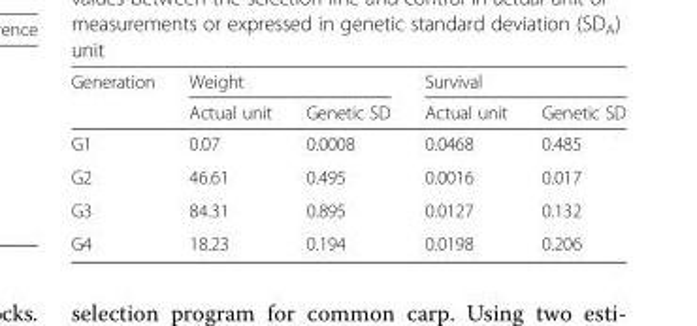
<table><thead><tr><td rowspan="2">Generation</td><td colspan="2">Weight</td><td colspan="2">Survival</td></tr><tr><td>Actual unit</td><td>Genetic SD</td><td>Actual unit</td><td>Genetic SD</td></tr></thead><tbody><tr><td>G1</td><td>0.07</td><td>0.0008</td><td>0.0468</td><td>0.485</td></tr><tr><td>G2</td><td>46.61</td><td>0.495</td><td>0.0016</td><td>0.017</td></tr><tr><td>G3</td><td>84.31</td><td>0.895</td><td>0.0127</td><td>0.132</td></tr><tr><td>G4</td><td>18.23</td><td>0.194</td><td>0.0198</td><td>0.206</td></tr></tbody></table>